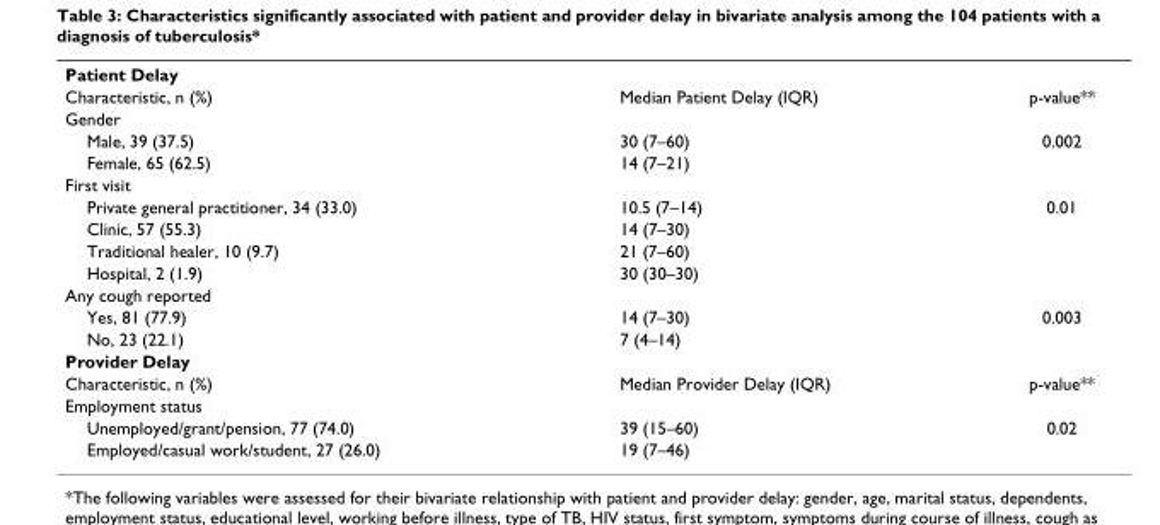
<table><tbody><tr><td colspan="3">Patient Delay</td></tr><tr><td>Characteristic, n (%)</td><td>Median Patient Delay (IQR)</td><td>p-value**</td></tr><tr><td colspan="3">Gender</td></tr><tr><td>Male, 39 (37.5)</td><td>30 (7–60)</td><td>0.002</td></tr><tr><td>Female, 65 (62.5)</td><td>14 (7–21)</td><td></td></tr><tr><td colspan="3">First visit</td></tr><tr><td>Private general practitioner, 34 (33.0)</td><td>10.5 (7–14)</td><td>0.01</td></tr><tr><td>Clinic, 57 (55.3)</td><td>14 (7–30)</td><td></td></tr><tr><td>Traditional healer, 10 (9.7)</td><td>21 (7–60)</td><td></td></tr><tr><td>Hospital, 2 (1.9)</td><td>30 (30–30)</td><td></td></tr><tr><td colspan="3">Any cough reported</td></tr><tr><td>Yes, 81 (77.9)</td><td>14 (7–30)</td><td>0.003</td></tr><tr><td>No, 23 (22.1)</td><td>7 (4–14)</td><td></td></tr><tr><td colspan="3">Provider Delay</td></tr><tr><td>Characteristic, n (%)</td><td>Median Provider Delay (IQR)</td><td>p-value**</td></tr><tr><td colspan="3">Employment status</td></tr><tr><td>Unemployed/grant/pension, 77 (74.0)</td><td>39 (15–60)</td><td>0.02</td></tr><tr><td>Employed/casual work/student, 27 (26.0)</td><td>19 (7–46)</td><td></td></tr></tbody></table>